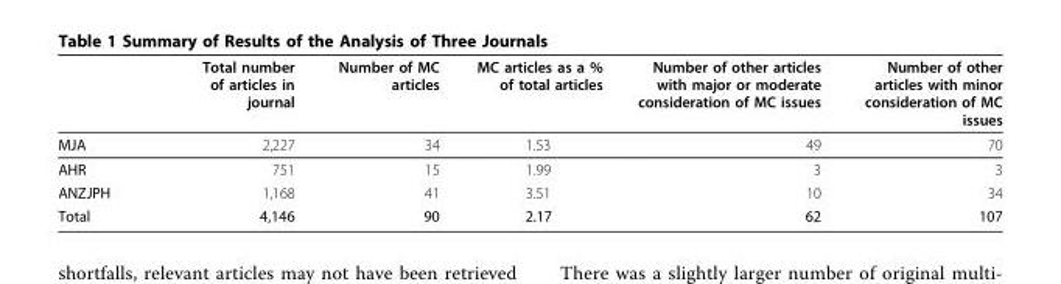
<table><thead><tr><td></td><td>Total number of articles in journal</td><td>Number of MC articles</td><td>MC articles as a % of total articles</td><td>Number of other articles with major or moderate consideration of MC issues</td><td>Number of other articles with minor consideration of MC issues</td></tr></thead><tbody><tr><td>MJA</td><td>2,227</td><td>34</td><td>1.53</td><td>49</td><td>70</td></tr><tr><td>AHR</td><td>751</td><td>15</td><td>1.99</td><td>3</td><td>3</td></tr><tr><td>ANZJPH</td><td>1,168</td><td>41</td><td>3.51</td><td>10</td><td>34</td></tr><tr><td>Total</td><td>4,146</td><td>90</td><td>2.17</td><td>62</td><td>107</td></tr></tbody></table>